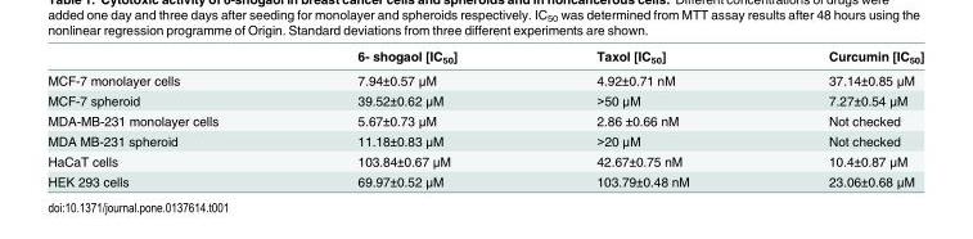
<table><thead><tr><td></td><td>6- shogaol [IC<sub>50</sub>]</td><td>Taxol [IC<sub>50</sub>]</td><td>Curcumin [IC<sub>50</sub>]</td></tr></thead><tbody><tr><td>MCF-7 monolayer cells</td><td>7.94±0.57 μM</td><td>4.92±0.71 nM</td><td>37.14±0.85 μM</td></tr><tr><td>MCF-7 spheroid</td><td>39.52±0.62 μM</td><td>&gt;50 μM</td><td>7.27±0.54 μM</td></tr><tr><td>MDA-MB-231 monolayer cells</td><td>5.67±0.73 μM</td><td>2.86 ±0.66 nM</td><td>Not checked</td></tr><tr><td>MDA MB-231 spheroid</td><td>11.18±0.83 μM</td><td>&gt;20 μM</td><td>Not checked</td></tr><tr><td>HaCaT cells</td><td>103.84±0.67 μM</td><td>42.67±0.75 nM</td><td>10.4±0.87 μM</td></tr><tr><td>HEK 293 cells</td><td>69.97±0.52 μM</td><td>103.79±0.48 nM</td><td>23.06±0.68 μM</td></tr></tbody></table>